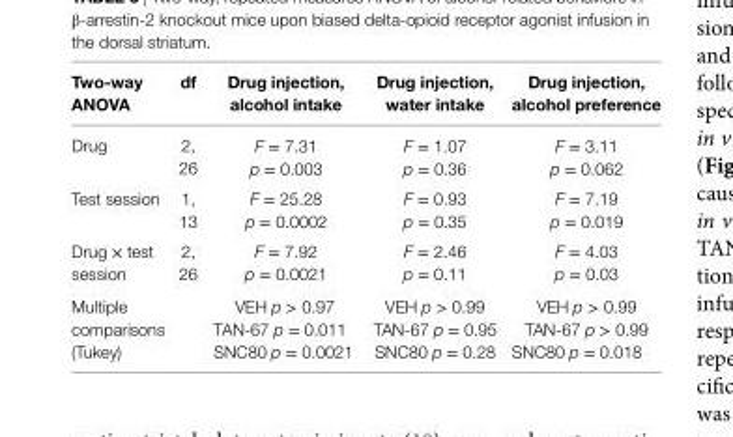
<table><thead><tr><td>Two-way anOVa</td><td>df</td><td>Drug injection, alcohol intake</td><td>Drug injection, water intake</td><td>Drug injection, alcohol preference</td></tr></thead><tbody><tr><td>Drug</td><td>2, 26</td><td>F = 7.31 p = 0.003</td><td>F = 1.07 p = 0.36</td><td>F = 3.11 p = 0.062</td></tr><tr><td>Test session</td><td>1, 13</td><td>F = 25.28 p = 0.0002</td><td>F = 0.93 p = 0.35</td><td>F = 7.19 p = 0.019</td></tr><tr><td>Drug × test session</td><td>2, 26</td><td>F = 7.92 p = 0.0021</td><td>F = 2.46 p = 0.11</td><td>F = 4.03 p = 0.03</td></tr><tr><td colspan="2">Multiple comparisons (Tukey)</td><td>VEH p &gt; 0.97 TAN-67 p = 0.011 SNC80 p = 0.0021</td><td>VEH p &gt; 0.99 TAN-67 p = 0.95 SNC80 p = 0.28</td><td>VEH p &gt; 0.99 TAN-67 p &gt; 0.99 SNC80 p = 0.018</td></tr></tbody></table>